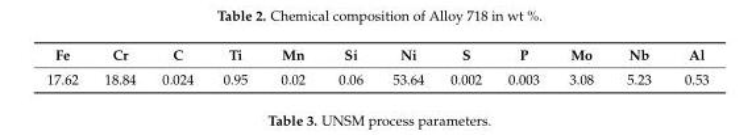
<table><thead><tr><td>Fe</td><td>Cr</td><td>C</td><td>Ti</td><td>Mn</td><td>Si</td><td>Ni</td><td>S</td><td>P</td><td>Mo</td><td>Nb</td><td>Al</td></tr></thead><tbody><tr><td>17.62</td><td>18.84</td><td>0.024</td><td>0.95</td><td>0.02</td><td>0.06</td><td>53.64</td><td>0.002</td><td>0.003</td><td>3.08</td><td>5.23</td><td>0.53</td></tr></tbody></table>